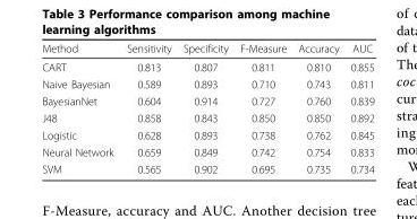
<table><thead><tr><td>Method</td><td>Sensitivity</td><td>Specificity</td><td>F-Measure</td><td>Accuracy</td><td>AUC</td></tr></thead><tbody><tr><td>CART</td><td>0.813</td><td>0.807</td><td>0.811</td><td>0.810</td><td>0.855</td></tr><tr><td>Naive Bayesian</td><td>0.589</td><td>0.893</td><td>0.710</td><td>0.743</td><td>0.811</td></tr><tr><td>BayesianNet</td><td>0.604</td><td>0.914</td><td>0.727</td><td>0.760</td><td>0.839</td></tr><tr><td>J48</td><td>0.858</td><td>0.843</td><td>0.850</td><td>0.850</td><td>0.892</td></tr><tr><td>Logistic</td><td>0.628</td><td>0.893</td><td>0.738</td><td>0.762</td><td>0.845</td></tr><tr><td>Neural Network</td><td>0.659</td><td>0.849</td><td>0.742</td><td>0.754</td><td>0.833</td></tr><tr><td>SVM</td><td>0.565</td><td>0.902</td><td>0.695</td><td>0.735</td><td>0.734</td></tr></tbody></table>